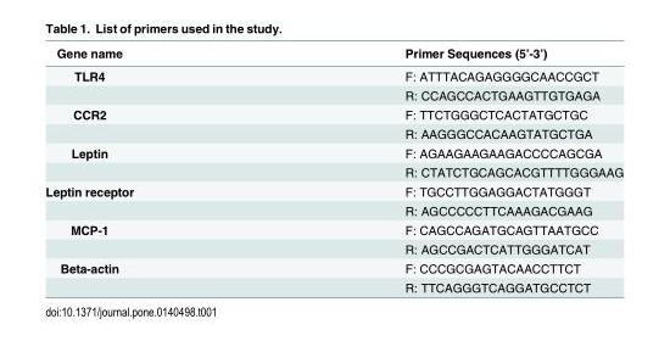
<table><thead><tr><td>Gene name</td><td>Primer Sequences (5’-3’)</td></tr></thead><tbody><tr><td rowspan="2">TLR4</td><td>F: ATTTACAGAGGGGCAACCGCT</td></tr><tr><td>R: CCAGCCACTGAAGTTGTGAGA</td></tr><tr><td rowspan="2">CCR2</td><td>F: TTCTGGGCTCACTATGCTGC</td></tr><tr><td>R: AAGGGCCACAAGTATGCTGA</td></tr><tr><td rowspan="2">Leptin</td><td>F: AGAAGAAGAAGACCCCAGCGA</td></tr><tr><td>R: CTATCTGCAGCACGTTTTGGGAAG</td></tr><tr><td rowspan="2">Leptin receptor</td><td>F: TGCCTTGGAGGACTATGGGT</td></tr><tr><td>R: AGCCCCCTTCAAAGACGAAG</td></tr><tr><td rowspan="2">MCP-1</td><td>F: CAGCCAGATGCAGTTAATGCC</td></tr><tr><td>R: AGCCGACTCATTGGGATCAT</td></tr><tr><td rowspan="2">Beta-actin</td><td>F: CCCGCGAGTACAACCTTCT</td></tr><tr><td>R: TTCAGGGTCAGGATGCCTCT</td></tr></tbody></table>